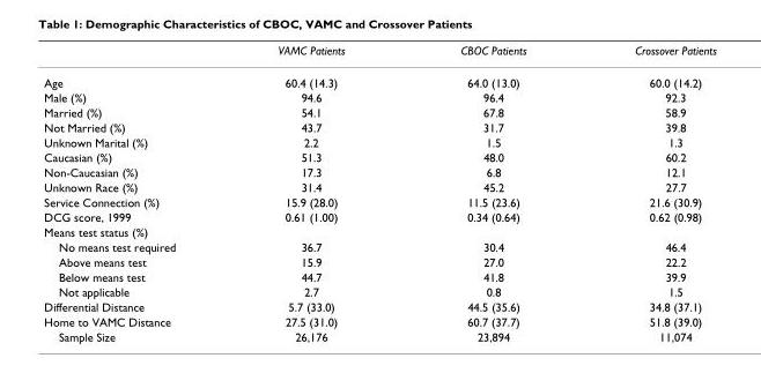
<table><thead><tr><td></td><td>VAMC Patients</td><td>CBOC Patients</td><td>Crossover Patients</td></tr></thead><tbody><tr><td>Age</td><td>60.4 (14.3)</td><td>64.0 (13.0)</td><td>60.0 (14.2)</td></tr><tr><td>Male (%)</td><td>94.6</td><td>96.4</td><td>92.3</td></tr><tr><td>Married (%)</td><td>54.1</td><td>67.8</td><td>58.9</td></tr><tr><td>Not Married (%)</td><td>43.7</td><td>31.7</td><td>39.8</td></tr><tr><td>Unknown Marital (%)</td><td>2.2</td><td>1.5</td><td>1.3</td></tr><tr><td>Caucasian (%)</td><td>51.3</td><td>48.0</td><td>60.2</td></tr><tr><td>Non-Caucasian (%)</td><td>17.3</td><td>6.8</td><td>12.1</td></tr><tr><td>Unknown Race (%)</td><td>31.4</td><td>45.2</td><td>27.7</td></tr><tr><td>Service Connection (%)</td><td>15.9 (28.0)</td><td>11.5 (23.6)</td><td>21.6 (30.9)</td></tr><tr><td>DCG score, 1999</td><td>0.61 (1.00)</td><td>0.34 (0.64)</td><td>0.62 (0.98)</td></tr><tr><td colspan="4">Means test status (%)</td></tr><tr><td>No means test required</td><td>36.7</td><td>30.4</td><td>46.4</td></tr><tr><td>Above means test</td><td>15.9</td><td>27.0</td><td>22.2</td></tr><tr><td>Below means test</td><td>44.7</td><td>41.8</td><td>39.9</td></tr><tr><td>Not applicable</td><td>2.7</td><td>0.8</td><td>1.5</td></tr><tr><td>Differential Distance</td><td>5.7 (33.0)</td><td>44.5 (35.6)</td><td>34.8 (37.1)</td></tr><tr><td>Home to VAMC Distance</td><td>27.5 (31.0)</td><td>60.7 (37.7)</td><td>51.8 (39.0)</td></tr><tr><td>Sample Size</td><td>26,176</td><td>23,894</td><td>11,074</td></tr></tbody></table>